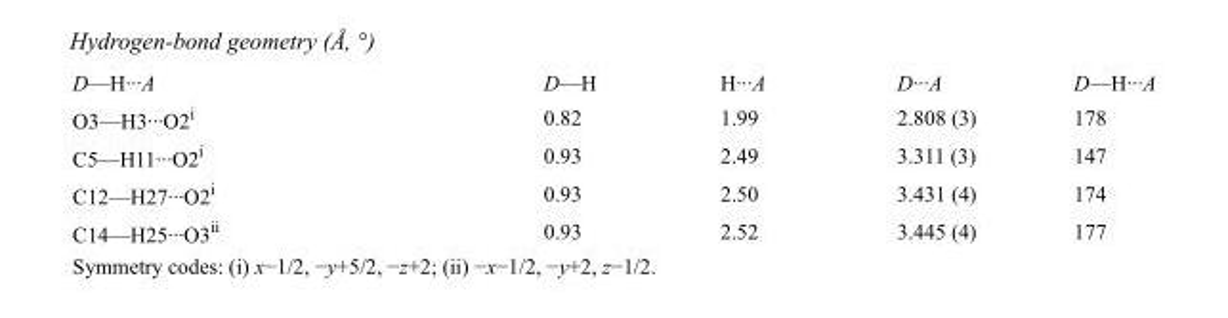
<table><tbody><tr><td>D—H···A</td><td>D—H</td><td>H···A</td><td>D···A</td><td>D—H···A</td></tr><tr><td>O3—H3···O2<sup>i</sup></td><td>0.82</td><td>1.99</td><td>2.808 (3)</td><td>178</td></tr><tr><td>C5—H11···O2<sup>i</sup></td><td>0.93</td><td>2.49</td><td>3.311 (3)</td><td>147</td></tr><tr><td>C12—H27···O2<sup>i</sup></td><td>0.93</td><td>2.50</td><td>3.431 (4)</td><td>174</td></tr><tr><td>C14—H25···O3<sup>ii</sup></td><td>0.93</td><td>2.52</td><td>3.445 (4)</td><td>177</td></tr></tbody></table>